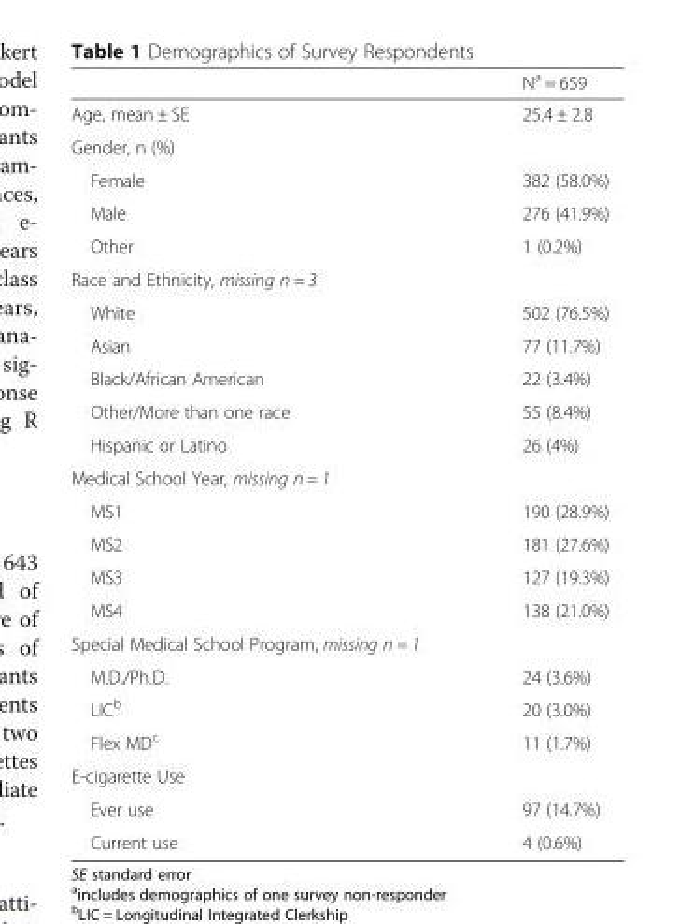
<table><thead><tr><td></td><td>N<sup>a</sup> = 659</td></tr></thead><tbody><tr><td>Age, mean ± SE</td><td>25.4 ± 2.8</td></tr><tr><td colspan="2">Gender, n (%)</td></tr><tr><td>Female</td><td>382 (58.0%)</td></tr><tr><td>Male</td><td>276 (41.9%)</td></tr><tr><td>Other</td><td>1 (0.2%)</td></tr><tr><td colspan="2">Race and Ethnicity, missing n = 3</td></tr><tr><td>White</td><td>502 (76.5%)</td></tr><tr><td>Asian</td><td>77 (11.7%)</td></tr><tr><td>Black/African American</td><td>22 (3.4%)</td></tr><tr><td>Other/More than one race</td><td>55 (8.4%)</td></tr><tr><td>Hispanic or Latino</td><td>26 (4%)</td></tr><tr><td colspan="2">Medical School Year, missing n = 1</td></tr><tr><td>MS1</td><td>190 (28.9%)</td></tr><tr><td>MS2</td><td>181 (27.6%)</td></tr><tr><td>MS3</td><td>127 (19.3%)</td></tr><tr><td>MS4</td><td>138 (21.0%)</td></tr><tr><td colspan="2">Special Medical School Program, missing n = 1</td></tr><tr><td>M.D./Ph.D.</td><td>24 (3.6%)</td></tr><tr><td>LIC<sup>b</sup></td><td>20 (3.0%)</td></tr><tr><td>Flex MD<sup>c</sup></td><td>11 (1.7%)</td></tr><tr><td colspan="2">E-cigarette Use</td></tr><tr><td>Ever use</td><td>97 (14.7%)</td></tr><tr><td>Current use</td><td>4 (0.6%)</td></tr></tbody></table>